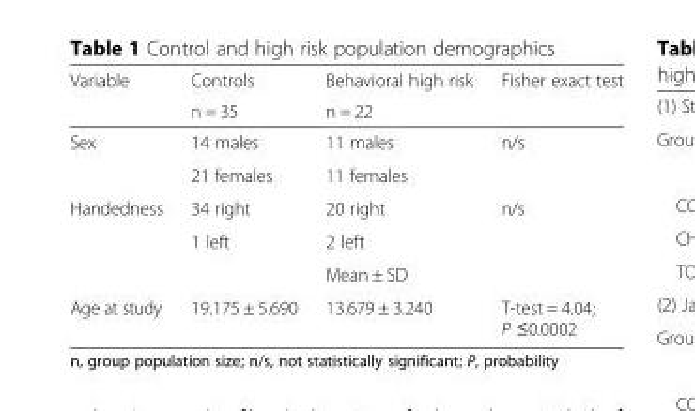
<table><thead><tr><td rowspan="2">Variable</td><td rowspan="2">Controls n = 35</td><td rowspan="2">Behavioral high risk n = 22</td><td rowspan="2">Fisher exact test</td></tr><tr></tr></thead><tbody><tr><td rowspan="2">Sex</td><td>14 males</td><td>11 males</td><td>n/s</td></tr><tr><td>21 females</td><td>11 females</td><td></td></tr><tr><td rowspan="3">Handedness</td><td>34 right</td><td>20 right</td><td>n/s</td></tr><tr><td>1 left</td><td>2 left</td><td></td></tr><tr><td></td><td>Mean ± SD</td><td></td></tr><tr><td>Age at study</td><td>19.175 ± 5.690</td><td>13.679 ± 3.240</td><td>T-test = 4.04; P ≤0.0002</td></tr></tbody></table>